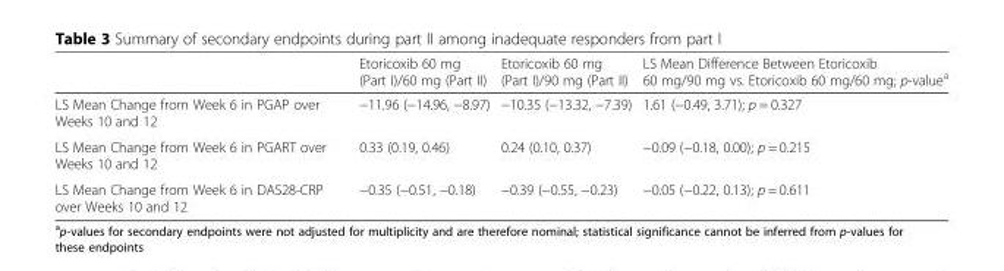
<table><thead><tr><td></td><td>Etoricoxib 60 mg (Part I)/60 mg (Part II)</td><td>Etoricoxib 60 mg (Part I)/90 mg (Part II)</td><td>LS Mean Difference Between Etoricoxib 60 mg/90 mg vs. Etoricoxib 60 mg/60 mg; p-value<sup>a</sup></td></tr></thead><tbody><tr><td>LS Mean Change from Week 6 in PGAP over Weeks 10 and 12</td><td>−11.96 (−14.96, −8.97)</td><td>−10.35 (−13.32, −7.39)</td><td>1.61 (−0.49, 3.71); p = 0.327</td></tr><tr><td>LS Mean Change from Week 6 in PGART over Weeks 10 and 12</td><td>0.33 (0.19, 0.46)</td><td>0.24 (0.10, 0.37)</td><td>−0.09 (−0.18, 0.00); p = 0.215</td></tr><tr><td>LS Mean Change from Week 6 in DAS28-CRP over Weeks 10 and 12</td><td>−0.35 (−0.51, −0.18)</td><td>−0.39 (−0.55, −0.23)</td><td>−0.05 (−0.22, 0.13); p = 0.611</td></tr></tbody></table>